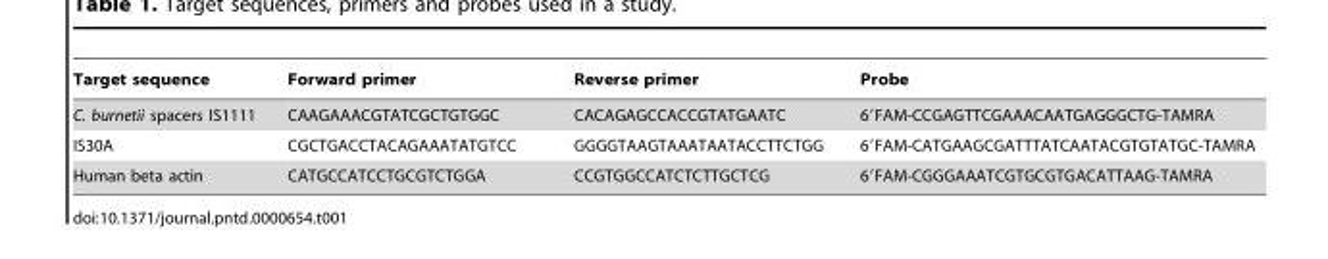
<table><thead><tr><td>Target sequence</td><td>Forward primer</td><td>Reverse primer</td><td>Probe</td></tr></thead><tbody><tr><td>C. burnetii spacers IS1111</td><td>CAAGAAACGTATCGCTGTGGC</td><td>CACAGAGCCACCGTATGAATC</td><td>6′FAM-CCGAGTTCGAAACAATGAGGGCTG-TAMRA</td></tr><tr><td>IS30A</td><td>CGCTGACCTACAGAAATATGTCC</td><td>GGGGTAAGTAAATAATACCTTCTGG</td><td>6′FAM-CATGAAGCGATTTATCAATACGTGTATGC-TAMRA</td></tr><tr><td>Human beta actin</td><td>CATGCCATCCTGCGTCTGGA</td><td>CCGTGGCCATCTCTTGCTCG</td><td>6′FAM-CGGGAAATCGTGCGTGACATTAAG-TAMRA</td></tr></tbody></table>